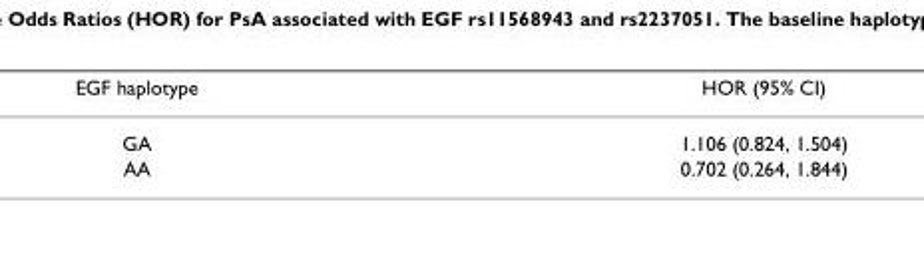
<table><thead><tr><td>EGF haplotype</td><td>HOR (95% CI)</td></tr></thead><tbody><tr><td>GA</td><td>1.106 (0.824, 1.504)</td></tr><tr><td>AA</td><td>0.702 (0.264, 1.844)</td></tr></tbody></table>